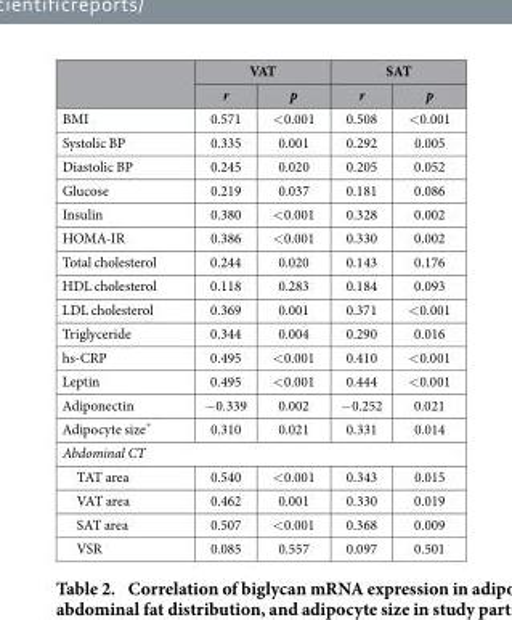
<table><thead><tr><td rowspan="2"></td><td colspan="2">VAT</td><td colspan="2">SAT</td></tr><tr><td>r</td><td>p</td><td>r</td><td>p</td></tr></thead><tbody><tr><td>BMI</td><td>0.571</td><td>&lt; 0.001</td><td>0.508</td><td>&lt; 0.001</td></tr><tr><td>Systolic BP</td><td>0.335</td><td>0.001</td><td>0.292</td><td>0.005</td></tr><tr><td>Diastolic BP</td><td>0.245</td><td>0.020</td><td>0.205</td><td>0.052</td></tr><tr><td>Glucose</td><td>0.219</td><td>0.037</td><td>0.181</td><td>0.086</td></tr><tr><td>Insulin</td><td>0.380</td><td>&lt; 0.001</td><td>0.328</td><td>0.002</td></tr><tr><td>HOMA-IR</td><td>0.386</td><td>&lt; 0.001</td><td>0.330</td><td>0.002</td></tr><tr><td>Total cholesterol</td><td>0.244</td><td>0.020</td><td>0.143</td><td>0.176</td></tr><tr><td>HDL cholesterol</td><td>0.118</td><td>0.283</td><td>0.184</td><td>0.093</td></tr><tr><td>LDL cholesterol</td><td>0.369</td><td>0.001</td><td>0.371</td><td>&lt; 0.001</td></tr><tr><td>Triglyceride</td><td>0.344</td><td>0.004</td><td>0.290</td><td>0.016</td></tr><tr><td>hs-CRP</td><td>0.495</td><td>&lt; 0.001</td><td>0.410</td><td>&lt; 0.001</td></tr><tr><td>Leptin</td><td>0.495</td><td>&lt; 0.001</td><td>0.444</td><td>&lt; 0.001</td></tr><tr><td>Adiponectin</td><td>−0.339</td><td>0.002</td><td>−0.252</td><td>0.021</td></tr><tr><td>Adipocyte size*</td><td>0.310</td><td>0.021</td><td>0.331</td><td>0.014</td></tr><tr><td colspan="5">Abdominal CT</td></tr><tr><td>TAT area</td><td>0.540</td><td>&lt; 0.001</td><td>0.343</td><td>0.015</td></tr><tr><td>VAT area</td><td>0.462</td><td>0.001</td><td>0.330</td><td>0.019</td></tr><tr><td>SAT area</td><td>0.507</td><td>&lt; 0.001</td><td>0.368</td><td>0.009</td></tr><tr><td>VSR</td><td>0.085</td><td>0.557</td><td>0.097</td><td>0.501</td></tr></tbody></table>